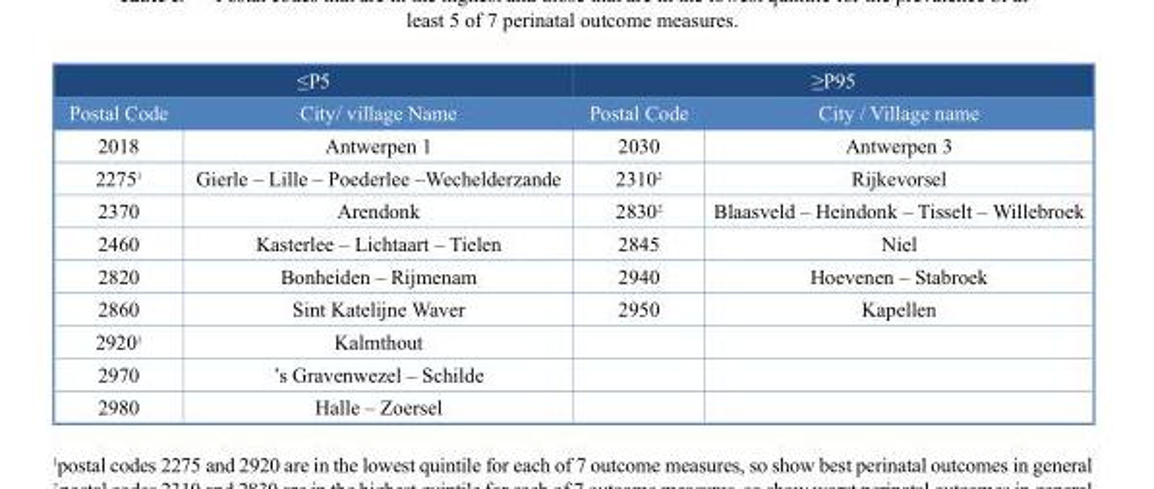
<table><thead><tr><td colspan="2">≤P5</td><td colspan="2">≥P95</td></tr><tr><td>Postal Code</td><td>City/ village Name</td><td>Postal Code</td><td>City / Village name</td></tr></thead><tbody><tr><td>2018</td><td>Antwerpen 1</td><td>2030</td><td>Antwerpen 3</td></tr><tr><td>2275<sup>1</sup></td><td>Gierle – Lille – Poederlee –Wechelderzande</td><td>2310<sup>2</sup></td><td>Rijkevorsel</td></tr><tr><td>2370</td><td>Arendonk</td><td>2830<sup>2</sup></td><td>Blaasveld – Heindonk – Tisselt – Willebroek</td></tr><tr><td>2460</td><td>Kasterlee – Lichtaart – Tielen</td><td>2845</td><td>Niel</td></tr><tr><td>2820</td><td>Bonheiden – Rijmenam</td><td>2940</td><td>Hoevenen – Stabroek</td></tr><tr><td>2860</td><td>Sint Katelijne Waver</td><td>2950</td><td>Kapellen</td></tr><tr><td>2920<sup>1</sup></td><td>Kalmthout</td><td></td><td></td></tr><tr><td>2970</td><td>’s Gravenwezel – Schilde</td><td></td><td></td></tr><tr><td>2980</td><td>Halle – Zoersel</td><td></td><td></td></tr></tbody></table>